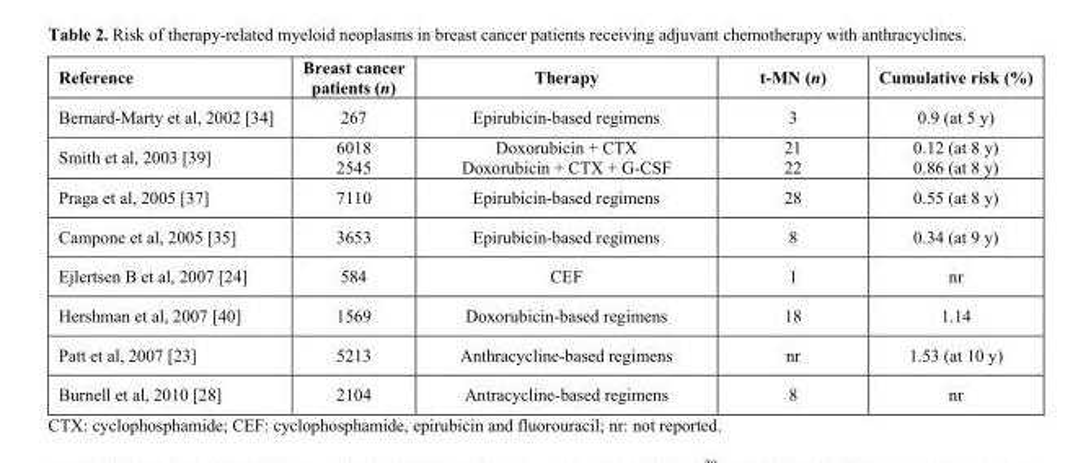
<table><thead><tr><td>Reference</td><td>Breast cancer patients (n)</td><td>Therapy</td><td>t-MN (n)</td><td>Cumulative risk (%)</td></tr></thead><tbody><tr><td>Bernard-Marty et al, 2002 [34]</td><td>267</td><td>Epirubicin-based regimens</td><td>3</td><td>0.9 (at 5 y)</td></tr><tr><td rowspan="2">Smith et al, 2003 [39]</td><td>6018</td><td>Doxorubicin + CTX</td><td>21</td><td>0.12 (at 8 y)</td></tr><tr><td>2545</td><td>Doxorubicin + CTX + G-CSF</td><td>22</td><td>0.86 (at 8 y)</td></tr><tr><td>Praga et al, 2005 [37]</td><td>7110</td><td>Epirubicin-based regimens</td><td>28</td><td>0.55 (at 8 y)</td></tr><tr><td>Campone et al, 2005 [35]</td><td>3653</td><td>Epirubicin-based regimens</td><td>8</td><td>0.34 (at 9 y)</td></tr><tr><td>Ejlertsen B et al, 2007 [24]</td><td>584</td><td>CEF</td><td>1</td><td>nr</td></tr><tr><td>Hershman et al, 2007 [40]</td><td>1569</td><td>Doxorubicin-based regimens</td><td>18</td><td>1.14</td></tr><tr><td>Patt et al, 2007 [23]</td><td>5213</td><td>Anthracycline-based regimens</td><td>nr</td><td>1.53 (at 10 y)</td></tr><tr><td>Burnell et al, 2010 [28]</td><td>2104</td><td>Antracycline-based regimens</td><td>8</td><td>nr</td></tr></tbody></table>